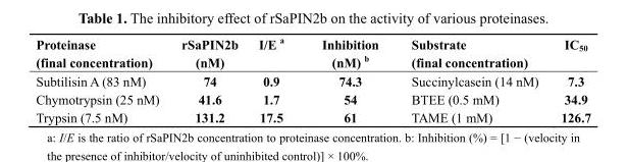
<table><thead><tr><td>Proteinase (final concentration)</td><td>rSaPIN2b (nM)</td><td>I/E a</td><td>Inhibition (nM) b</td><td>Substrate (final concentration)</td><td>IC<sub>50</sub></td></tr></thead><tbody><tr><td>Subtilisin A (83 nM)</td><td>74</td><td>0.9</td><td>74.3</td><td>Succinylcasein (14 nM)</td><td>7.3</td></tr><tr><td>Chymotrypsin (25 nM)</td><td>41.6</td><td>1.7</td><td>54</td><td>BTEE (0.5 mM)</td><td>34.9</td></tr><tr><td>Trypsin (7.5 nM)</td><td>131.2</td><td>17.5</td><td>61</td><td>TAME (1 mM)</td><td>126.7</td></tr></tbody></table>